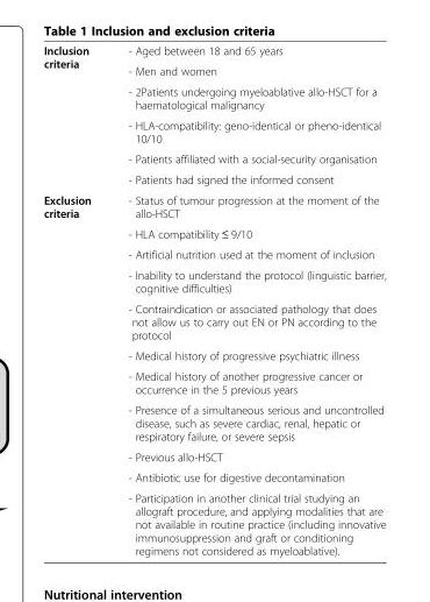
<table><tbody><tr><td rowspan="6">Inclusion criteria</td><td>- Aged between 18 and 65 years</td></tr><tr><td>- Men and women</td></tr><tr><td>- 2Patients undergoing myeloablative allo-HSCT for a haematological malignancy</td></tr><tr><td>- HLA-compatibility: geno-identical or pheno-identical 10/10</td></tr><tr><td>- Patients affiliated with a social-security organisation</td></tr><tr><td>- Patients had signed the informed consent</td></tr><tr><td rowspan="11">Exclusion criteria</td><td>- Status of tumour progression at the moment of the allo-HSCT</td></tr><tr><td>- HLA compatibility ≤ 9/10</td></tr><tr><td>- Artificial nutrition used at the moment of inclusion</td></tr><tr><td>- Inability to understand the protocol (linguistic barrier, cognitive difficulties)</td></tr><tr><td>- Contraindication or associated pathology that does not allow us to carry out EN or PN according to the protocol</td></tr><tr><td>- Medical history of progressive psychiatric illness</td></tr><tr><td>- Medical history of another progressive cancer or occurrence in the 5 previous years</td></tr><tr><td>- Presence of a simultaneous serious and uncontrolled disease, such as severe cardiac, renal, hepatic or respiratory failure, or severe sepsis</td></tr><tr><td>- Previous allo-HSCT</td></tr><tr><td>- Antibiotic use for digestive decontamination</td></tr><tr><td>- Participation in another clinical trial studying an allograft procedure, and applying modalities that are not available in routine practice (including innovative immunosuppression and graft or conditioning regimens not considered as myeloablative).</td></tr></tbody></table>